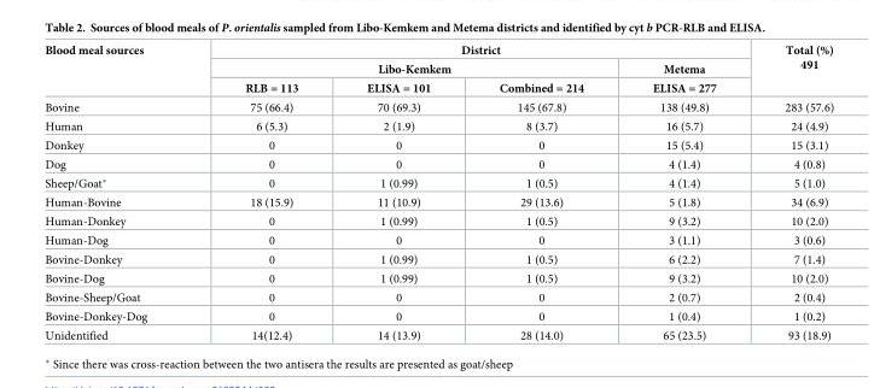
<table><thead><tr><td rowspan="3">Blood meal sources</td><td colspan="4">District</td><td rowspan="3">Total (%) 491</td></tr><tr><td colspan="3">Libo-Kemkem</td><td rowspan="2">Metema ELISA = 277</td></tr><tr><td>RLB = 113</td><td>ELISA = 101</td><td>Combined = 214</td></tr></thead><tbody><tr><td>Bovine</td><td>75 (66.4)</td><td>70 (69.3)</td><td>145 (67.8)</td><td>138 (49.8)</td><td>283 (57.6)</td></tr><tr><td>Human</td><td>6 (5.3)</td><td>2 (1.9)</td><td>8 (3.7)</td><td>16 (5.7)</td><td>24 (4.9)</td></tr><tr><td>Donkey</td><td>0</td><td>0</td><td>0</td><td>15 (5.4)</td><td>15 (3.1)</td></tr><tr><td>Dog</td><td>0</td><td>0</td><td>0</td><td>4 (1.4)</td><td>4 (0.8)</td></tr><tr><td>Sheep/Goat*</td><td>0</td><td>1 (0.99)</td><td>1 (0.5)</td><td>4 (1.4)</td><td>5 (1.0)</td></tr><tr><td>Human-Bovine</td><td>18 (15.9)</td><td>11 (10.9)</td><td>29 (13.6)</td><td>5 (1.8)</td><td>34 (6.9)</td></tr><tr><td>Human-Donkey</td><td>0</td><td>1 (0.99)</td><td>1 (0.5)</td><td>9 (3.2)</td><td>10 (2.0)</td></tr><tr><td>Human-Dog</td><td>0</td><td>0</td><td>0</td><td>3 (1.1)</td><td>3 (0.6)</td></tr><tr><td>Bovine-Donkey</td><td>0</td><td>1 (0.99)</td><td>1 (0.5)</td><td>6 (2.2)</td><td>7 (1.4)</td></tr><tr><td>Bovine-Dog</td><td>0</td><td>1 (0.99)</td><td>1 (0.5)</td><td>9 (3.2)</td><td>10 (2.0)</td></tr><tr><td>Bovine-Sheep/Goat</td><td>0</td><td>0</td><td>0</td><td>2 (0.7)</td><td>2 (0.4)</td></tr><tr><td>Bovine-Donkey-Dog</td><td>0</td><td>0</td><td>0</td><td>1 (0.4)</td><td>1 (0.2)</td></tr><tr><td>Unidentified</td><td>14(12.4)</td><td>14 (13.9)</td><td>28 (14.0)</td><td>65 (23.5)</td><td>93 (18.9)</td></tr></tbody></table>